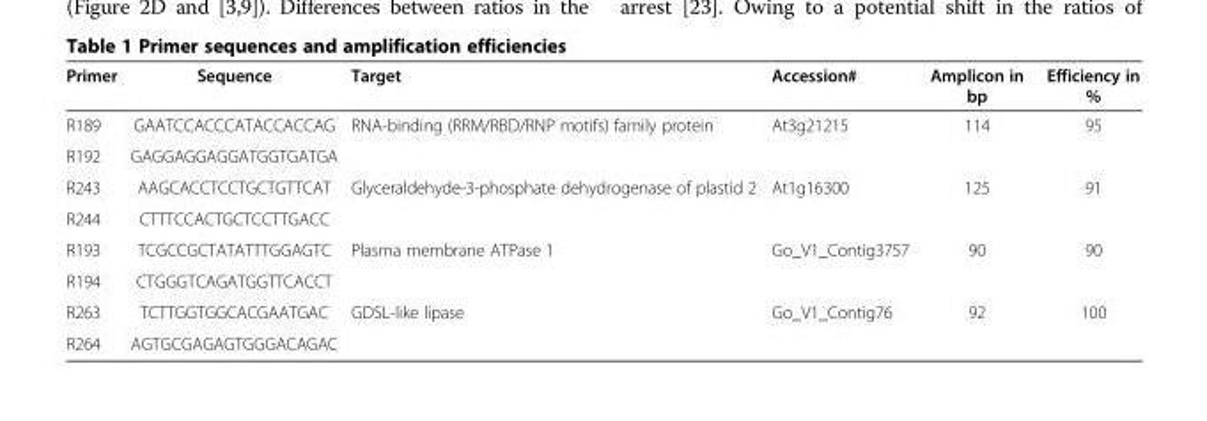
<table><thead><tr><td>Primer</td><td>Sequence</td><td>Target</td><td>Accession#</td><td>Amplicon in bp</td><td>Efficiency in %</td></tr></thead><tbody><tr><td>R189</td><td>GAATCCACCCATACCACCAG</td><td rowspan="2">RNA-binding (RRM/RBD/RNP motifs) family protein</td><td rowspan="2">At3g21215</td><td rowspan="2">114</td><td rowspan="2">95</td></tr><tr><td>R192</td><td>GAGGAGGAGGATGGTGATGA</td></tr><tr><td>R243</td><td>AAGCACCTCCTGCTGTTCAT</td><td rowspan="2">Glyceraldehyde-3-phosphate dehydrogenase of plastid 2</td><td rowspan="2">At1g16300</td><td rowspan="2">125</td><td rowspan="2">91</td></tr><tr><td>R244</td><td>CTTTCCACTGCTCCTTGACC</td></tr><tr><td>R193</td><td>TCGCCGCTATATTTGGAGTC</td><td rowspan="2">Plasma membrane ATPase 1</td><td rowspan="2">Go_V1_Contig3757</td><td rowspan="2">90</td><td rowspan="2">90</td></tr><tr><td>R194</td><td>CTGGGTCAGATGGTTCACCT</td></tr><tr><td>R263</td><td>TCTTGGTGGCACGAATGAC</td><td rowspan="2">GDSL-like lipase</td><td rowspan="2">Go_V1_Contig76</td><td rowspan="2">92</td><td rowspan="2">100</td></tr><tr><td>R264</td><td>AGTGCGAGAGTGGGACAGAC</td></tr></tbody></table>